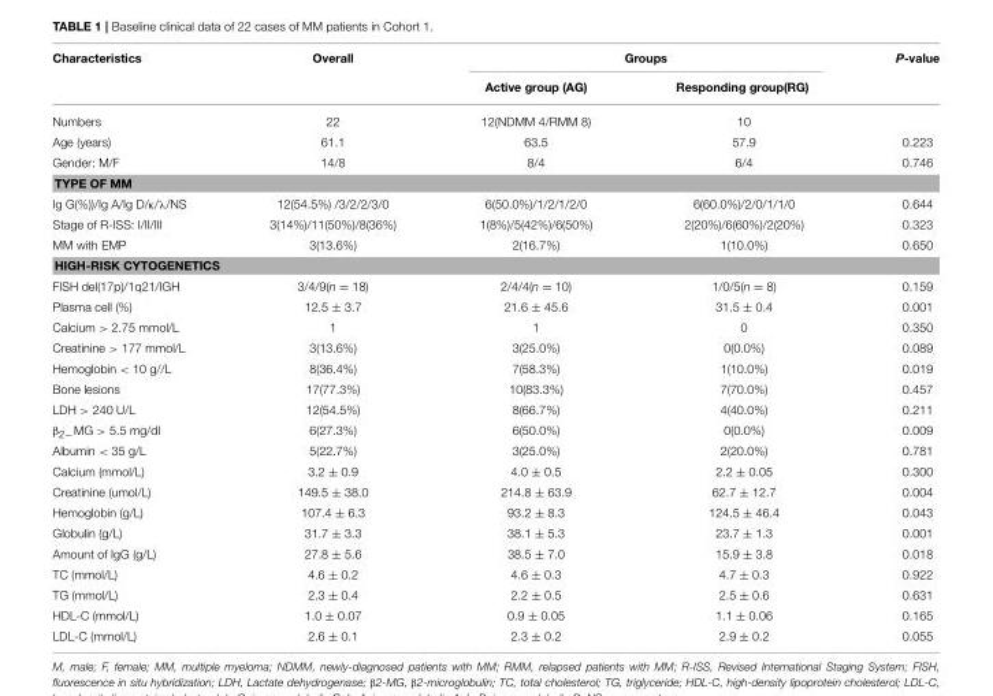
<table><thead><tr><td rowspan="2">Characteristics</td><td rowspan="2">Overall</td><td colspan="2">Groups</td><td rowspan="2">P-value</td></tr><tr><td>Active group (AG)</td><td>Responding group(RG)</td></tr></thead><tbody><tr><td>Numbers</td><td>22</td><td>12(NDMM 4/RMM 8)</td><td>10</td><td></td></tr><tr><td>Age (years)</td><td>61.1</td><td>63.5</td><td>57.9</td><td>0.223</td></tr><tr><td>Gender: M/F</td><td>14/8</td><td>8/4</td><td>6/4</td><td>0.746</td></tr><tr><td colspan="5">TYPE OF MM</td></tr><tr><td>Ig G(%))/Ig A/Ig D/κ/λ/NS</td><td>12(54.5%) /3/2/2/3/0</td><td>6(50.0%)/1/2/1/2/0</td><td>6(60.0%)/2/0/1/1/0</td><td>0.644</td></tr><tr><td>Stage of R-ISS: I/II/III</td><td>3(14%)/11(50%)/8(36%)</td><td>1(8%)/5(42%)/6(50%)</td><td>2(20%)/6(60%)/2(20%)</td><td>0.323</td></tr><tr><td>MM with EMP</td><td>3(13.6%)</td><td>2(16.7%)</td><td>1(10.0%)</td><td>0.650</td></tr><tr><td colspan="5">HIGH-RISK CYTOGENETICS</td></tr><tr><td>FISH del(17p)/1q21/IGH</td><td>3/4/9(n = 18)</td><td>2/4/4(n = 10)</td><td>1/0/5(n = 8)</td><td>0.159</td></tr><tr><td>Plasma cell (%)</td><td>12.5 ± 3.7</td><td>21.6 ± 45.6</td><td>31.5 ± 0.4</td><td>0.001</td></tr><tr><td>Calcium &gt; 2.75 mmol/L</td><td>1</td><td>1</td><td>0</td><td>0.350</td></tr><tr><td>Creatinine &gt; 177 mmol/L</td><td>3(13.6%)</td><td>3(25.0%)</td><td>0(0.0%)</td><td>0.089</td></tr><tr><td>Hemoglobin &lt; 10 g//L</td><td>8(36.4%)</td><td>7(58.3%)</td><td>1(10.0%)</td><td>0.019</td></tr><tr><td>Bone lesions</td><td>17(77.3%)</td><td>10(83.3%)</td><td>7(70.0%)</td><td>0.457</td></tr><tr><td>LDH &gt; 240 U/L</td><td>12(54.5%)</td><td>8(66.7%)</td><td>4(40.0%)</td><td>0.211</td></tr><tr><td>β<sub>2−</sub>MG &gt; 5.5 mg/dl</td><td>6(27.3%)</td><td>6(50.0%)</td><td>0(0.0%)</td><td>0.009</td></tr><tr><td>Albumin &lt; 35 g/L</td><td>5(22.7%)</td><td>3(25.0%)</td><td>2(20.0%)</td><td>0.781</td></tr><tr><td>Calcium (mmol/L)</td><td>3.2 ± 0.9</td><td>4.0 ± 0.5</td><td>2.2 ± 0.05</td><td>0.300</td></tr><tr><td>Creatinine (umol/L)</td><td>149.5 ± 38.0</td><td>214.8 ± 63.9</td><td>62.7 ± 12.7</td><td>0.004</td></tr><tr><td>Hemoglobin (g/L)</td><td>107.4 ± 6.3</td><td>93.2 ± 8.3</td><td>124.5 ± 46.4</td><td>0.043</td></tr><tr><td>Globulin (g/L)</td><td>31.7 ± 3.3</td><td>38.1 ± 5.3</td><td>23.7 ± 1.3</td><td>0.001</td></tr><tr><td>Amount of IgG (g/L)</td><td>27.8 ± 5.6</td><td>38.5 ± 7.0</td><td>15.9 ± 3.8</td><td>0.018</td></tr><tr><td>TC (mmol/L)</td><td>4.6 ± 0.2</td><td>4.6 ± 0.3</td><td>4.7 ± 0.3</td><td>0.922</td></tr><tr><td>TG (mmol/L)</td><td>2.3 ± 0.4</td><td>2.2 ± 0.5</td><td>2.5 ± 0.6</td><td>0.631</td></tr><tr><td>HDL-C (mmol/L)</td><td>1.0 ± 0.07</td><td>0.9 ± 0.05</td><td>1.1 ± 0.06</td><td>0.165</td></tr><tr><td>LDL-C (mmol/L)</td><td>2.6 ± 0.1</td><td>2.3 ± 0.2</td><td>2.9 ± 0.2</td><td>0.055</td></tr></tbody></table>